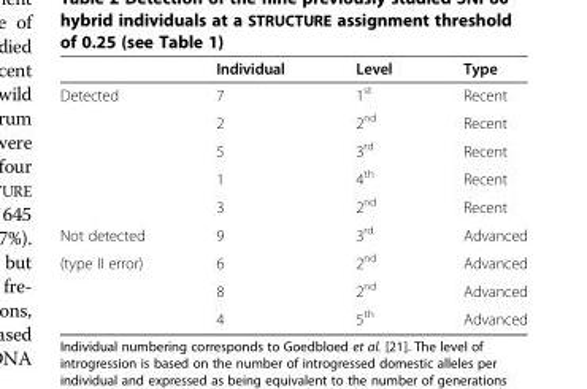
<table><thead><tr><td></td><td>Individual</td><td>Level</td><td>Type</td></tr></thead><tbody><tr><td rowspan="5">Detected</td><td>7</td><td>1<sup>st</sup></td><td>Recent</td></tr><tr><td>2</td><td>2<sup>nd</sup></td><td>Recent</td></tr><tr><td>5</td><td>3<sup>rd</sup></td><td>Recent</td></tr><tr><td>1</td><td>4<sup>th</sup></td><td>Recent</td></tr><tr><td>3</td><td>2<sup>nd</sup></td><td>Recent</td></tr><tr><td>Not detected</td><td>9</td><td>3<sup>rd</sup></td><td>Advanced</td></tr><tr><td rowspan="3">(type II error)</td><td>6</td><td>2<sup>nd</sup></td><td>Advanced</td></tr><tr><td>8</td><td>2<sup>nd</sup></td><td>Advanced</td></tr><tr><td>4</td><td>5<sup>th</sup></td><td>Advanced</td></tr></tbody></table>